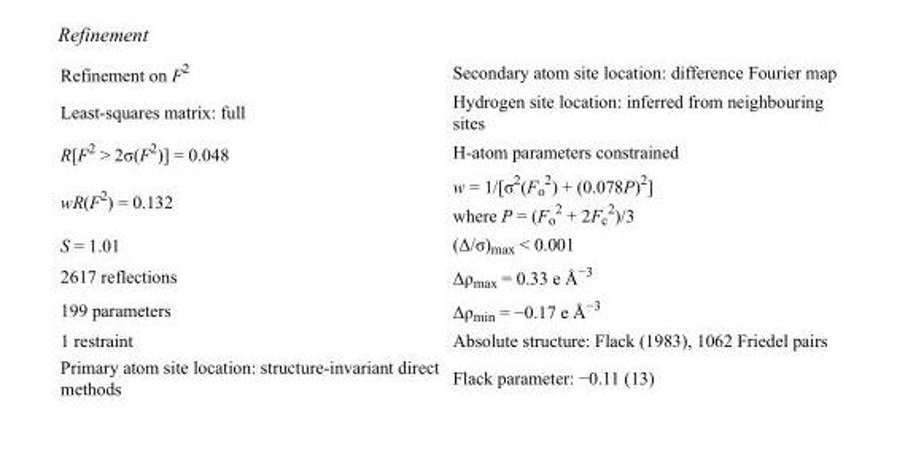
<table><tbody><tr><td>Refinement on F<sup>2</sup></td><td>Secondary atom site location: difference Fourier map</td></tr><tr><td>Least-squares matrix: full</td><td>Hydrogen site location: inferred from neighbouring sites</td></tr><tr><td>R[F<sup>2</sup> &gt; 2σ(F<sup>2</sup>)] = 0.048</td><td>H-atom parameters constrained</td></tr><tr><td>wR(F<sup>2</sup>) = 0.132</td><td>w = 1/[σ<sup>2</sup>(F<sub>o</sub> <sup>2</sup>) + (0.078P)<sup>2</sup>] where P = (F<sub>o</sub> <sup>2</sup> + 2F<sub>c</sub> <sup>2</sup>)/3</td></tr><tr><td>S = 1.01</td><td>(Δ/σ)<sub>max</sub> &lt; 0.001</td></tr><tr><td>2617 reflections</td><td>Δρ<sub>max</sub> = 0.33 e Å<sup>−3</sup></td></tr><tr><td>199 parameters</td><td>Δρ<sub>min</sub> = −0.17 e Å<sup>−3</sup></td></tr><tr><td>1 restraint</td><td>Absolute structure: Flack (1983), 1062 Friedel pairs</td></tr><tr><td>Primary atom site location: structure-invariant direct methods</td><td>Flack parameter: −0.11 (13)</td></tr></tbody></table>